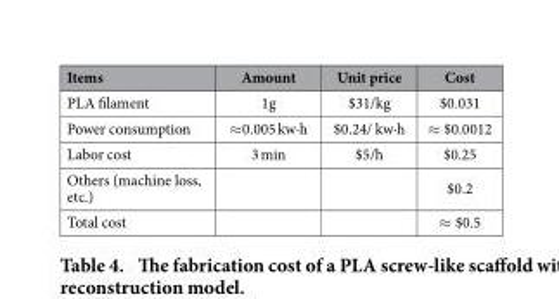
<table><thead><tr><td>Items</td><td>Amount</td><td>Unit price</td><td>Cost</td></tr></thead><tbody><tr><td>PLA filament</td><td>1g</td><td>$31/kg</td><td>$0.031</td></tr><tr><td>Power consumption</td><td>≈ 0.005 kw·h</td><td>$0.24/ kw·h</td><td>≈ $0.0012</td></tr><tr><td>Labor cost</td><td>3 min</td><td>$5/h</td><td>$0.25</td></tr><tr><td>Others (machine loss, etc.)</td><td></td><td></td><td>$0.2</td></tr><tr><td>Total cost</td><td></td><td></td><td>≈ $0.5</td></tr></tbody></table>